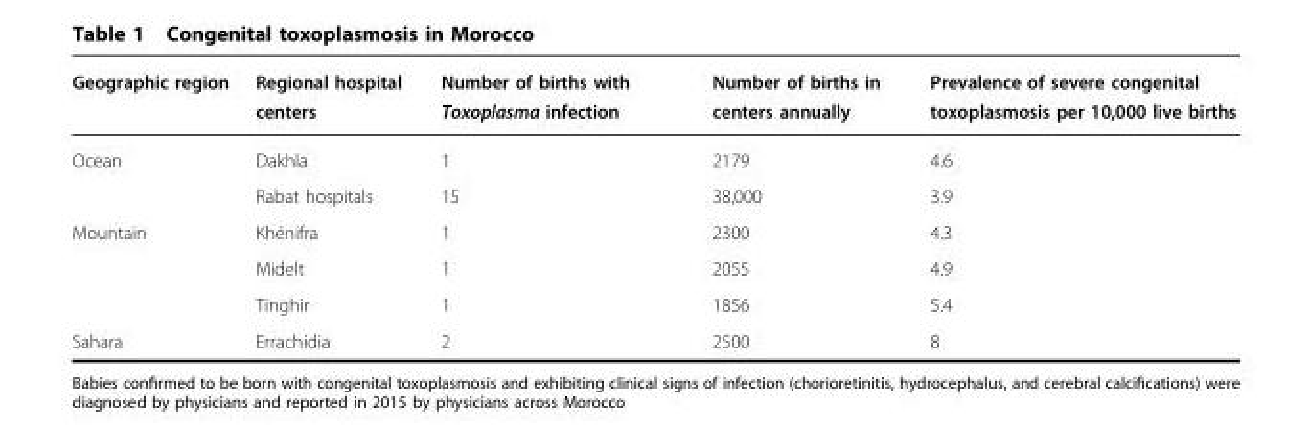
<table><thead><tr><td>Geographic region</td><td>Regional hospital centers</td><td>Number of births with Toxoplasma infection</td><td>Number of births in centers annually</td><td>Prevalence of severe congenital toxoplasmosis per 10,000 live births</td></tr></thead><tbody><tr><td rowspan="2">Ocean</td><td>Dakhla</td><td>1</td><td>2179</td><td>4.6</td></tr><tr><td>Rabat hospitals</td><td>15</td><td>38,000</td><td>3.9</td></tr><tr><td rowspan="3">Mountain</td><td>Khénifra</td><td>1</td><td>2300</td><td>4.3</td></tr><tr><td>Midelt</td><td>1</td><td>2055</td><td>4.9</td></tr><tr><td>Tinghir</td><td>1</td><td>1856</td><td>5.4</td></tr><tr><td>Sahara</td><td>Errachidia</td><td>2</td><td>2500</td><td>8</td></tr></tbody></table>